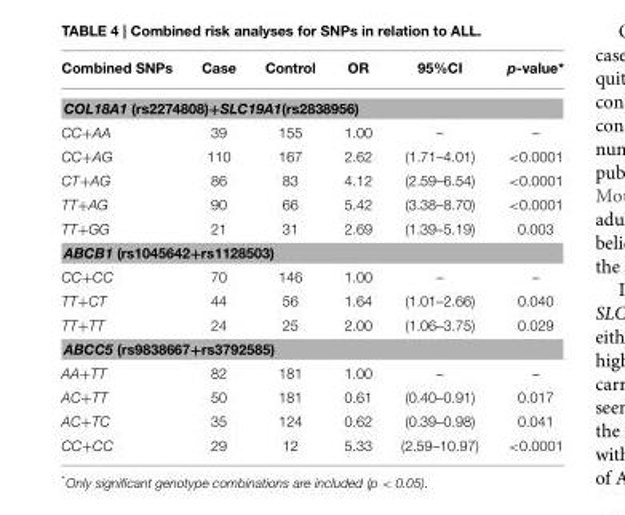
<table><thead><tr><td>Combined SNPs</td><td>Case</td><td>Control</td><td>OR</td><td>95%CI</td><td>p-value*</td></tr></thead><tbody><tr><td colspan="6">COL18A1 (rs2274808)+SLC19A1(rs2838956)</td></tr><tr><td>CC+AA</td><td>39</td><td>155</td><td>1.00</td><td>–</td><td>–</td></tr><tr><td>CC+AG</td><td>110</td><td>167</td><td>2.62</td><td>(1.71–4.01)</td><td>&lt;0.0001</td></tr><tr><td>CT+AG</td><td>86</td><td>83</td><td>4.12</td><td>(2.59–6.54)</td><td>&lt;0.0001</td></tr><tr><td>TT+AG</td><td>90</td><td>66</td><td>5.42</td><td>(3.38–8.70)</td><td>&lt;0.0001</td></tr><tr><td>TT+GG</td><td>21</td><td>31</td><td>2.69</td><td>(1.39–5.19)</td><td>0.003</td></tr><tr><td colspan="6">ABCB1 (rs1045642+rs1128503)</td></tr><tr><td>CC+CC</td><td>70</td><td>146</td><td>1.00</td><td>–</td><td>–</td></tr><tr><td>TT+CT</td><td>44</td><td>56</td><td>1.64</td><td>(1.01–2.66)</td><td>0.040</td></tr><tr><td>TT+TT</td><td>24</td><td>25</td><td>2.00</td><td>(1.06–3.75)</td><td>0.029</td></tr><tr><td colspan="6">ABCC5 (rs9838667+rs3792585)</td></tr><tr><td>AA+TT</td><td>82</td><td>181</td><td>1.00</td><td>–</td><td>–</td></tr><tr><td>AC+TT</td><td>50</td><td>181</td><td>0.61</td><td>(0.40–0.91)</td><td>0.017</td></tr><tr><td>AC+TC</td><td>35</td><td>124</td><td>0.62</td><td>(0.39–0.98)</td><td>0.041</td></tr><tr><td>CC+CC</td><td>29</td><td>12</td><td>5.33</td><td>(2.59–10.97)</td><td>&lt;0.0001</td></tr></tbody></table>